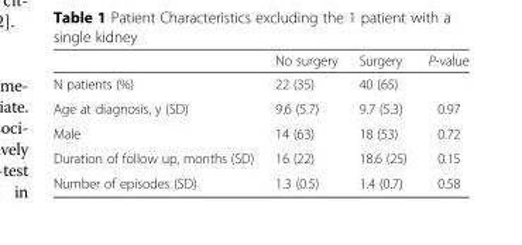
<table><thead><tr><td></td><td>No surgery</td><td>Surgery</td><td>P-value</td></tr></thead><tbody><tr><td>N patients (%)</td><td>22 (35)</td><td>40 (65)</td><td></td></tr><tr><td>Age at diagnosis, y (SD)</td><td>9.6 (5.7)</td><td>9.7 (5.3)</td><td>0.97</td></tr><tr><td>Male</td><td>14 (63)</td><td>18 (53)</td><td>0.72</td></tr><tr><td>Duration of follow up, months (SD)</td><td>16 (22)</td><td>18.6 (25)</td><td>0.15</td></tr><tr><td>Number of episodes (SD)</td><td>1.3 (0.5)</td><td>1.4 (0.7)</td><td>0.58</td></tr></tbody></table>